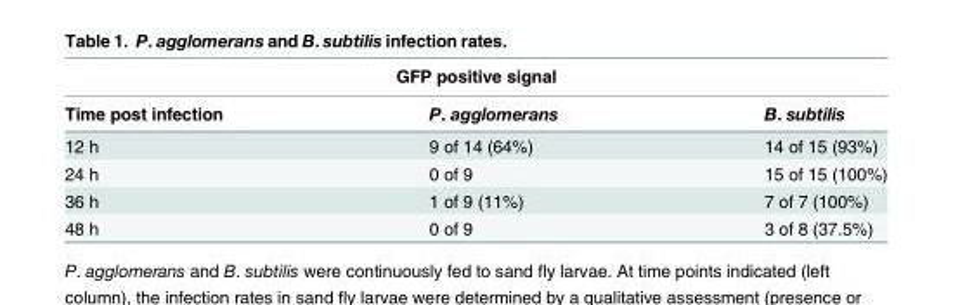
<table><thead><tr><td colspan="3">GFP positive signal</td></tr><tr><td>Time post infection</td><td>P. agglomerans</td><td>B. subtilis</td></tr></thead><tbody><tr><td>12 h</td><td>9 of 14 (64%)</td><td>14 of 15 (93%)</td></tr><tr><td>24 h</td><td>0 of 9</td><td>15 of 15 (100%)</td></tr><tr><td>36 h</td><td>1 of 9 (11%)</td><td>7 of 7 (100%)</td></tr><tr><td>48 h</td><td>0 of 9</td><td>3 of 8 (37.5%)</td></tr></tbody></table>